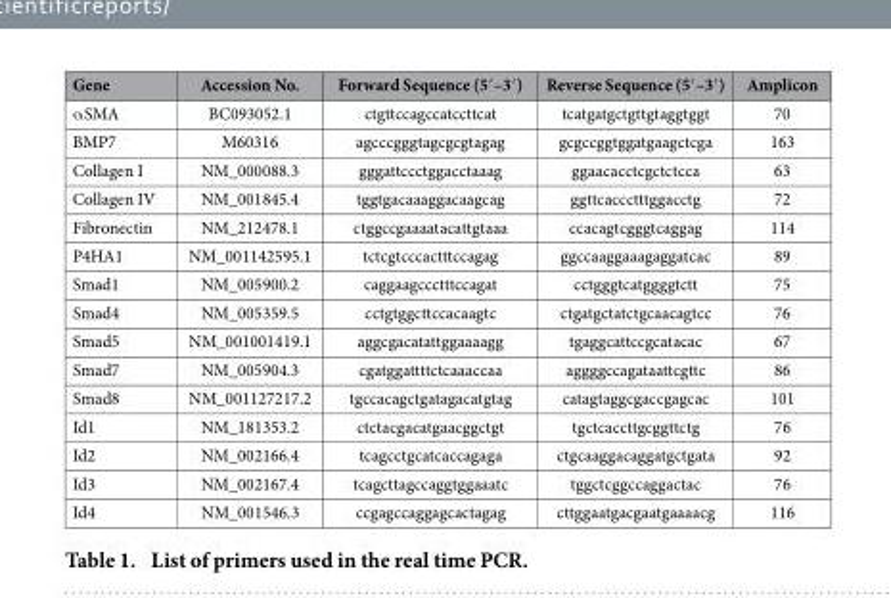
<table><thead><tr><td>Gene</td><td>Accession No.</td><td>Forward Sequence (5′ –3′ )</td><td>Reverse Sequence (5′ –3′ )</td><td>Amplicon</td></tr></thead><tbody><tr><td>α SMA</td><td>BC093052.1</td><td>ctgttccagccatccttcat</td><td>tcatgatgctgttgtaggtggt</td><td>70</td></tr><tr><td>BMP7</td><td>M60316</td><td>agcccgggtagcgcgtagag</td><td>gcgccggtggatgaagctcga</td><td>163</td></tr><tr><td>Collagen I</td><td>NM_000088.3</td><td>gggattccctggacctaaag</td><td>ggaacacctcgctctcca</td><td>63</td></tr><tr><td>Collagen IV</td><td>NM_001845.4</td><td>tggtgacaaaggacaagcag</td><td>ggttcaccctttggacctg</td><td>72</td></tr><tr><td>Fibronectin</td><td>NM_212478.1</td><td>ctggccgaaaatacattgtaaa</td><td>ccacagtcgggtcaggag</td><td>114</td></tr><tr><td>P4HA1</td><td>NM_001142595.1</td><td>tctcgtcccactttccagag</td><td>ggccaaggaaagaggatcac</td><td>89</td></tr><tr><td>Smad1</td><td>NM_005900.2</td><td>caggaagccctttccagat</td><td>cctgggtcatggggtctt</td><td>75</td></tr><tr><td>Smad4</td><td>NM_005359.5</td><td>cctgtggcttccacaagtc</td><td>ctgatgctatctgcaacagtcc</td><td>76</td></tr><tr><td>Smad5</td><td>NM_001001419.1</td><td>aggcgacatattggaaaagg</td><td>tgaggcattccgcatacac</td><td>67</td></tr><tr><td>Smad7</td><td>NM_005904.3</td><td>cgatggattttctcaaaccaa</td><td>aggggccagataattcgttc</td><td>86</td></tr><tr><td>Smad8</td><td>NM_001127217.2</td><td>tgccacagctgatagacatgtag</td><td>catagtaggcgaccgagcac</td><td>101</td></tr><tr><td>Id1</td><td>NM_181353.2</td><td>ctctacgacatgaacggctgt</td><td>tgctcaccttgcggttctg</td><td>76</td></tr><tr><td>Id2</td><td>NM_002166.4</td><td>tcagcctgcatcaccagaga</td><td>ctgcaaggacaggatgctgata</td><td>92</td></tr><tr><td>Id3</td><td>NM_002167.4</td><td>tcagcttagccaggtggaaatc</td><td>tggctcggccaggactac</td><td>76</td></tr><tr><td>Id4</td><td>NM_001546.3</td><td>ccgagccaggagcactagag</td><td>cttggaatgacgaatgaaaacg</td><td>116</td></tr></tbody></table>